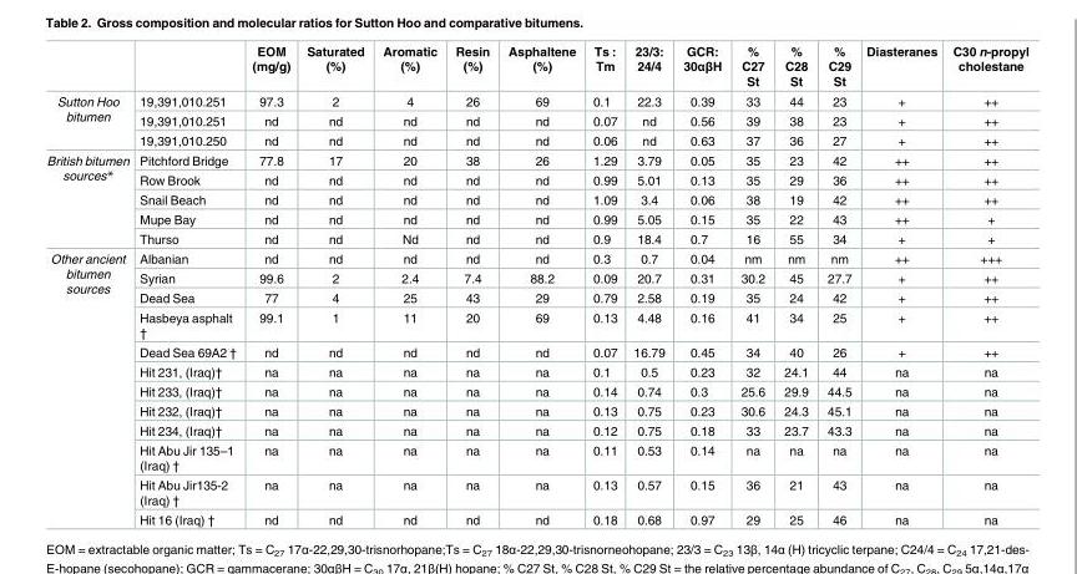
<table><thead><tr><td></td><td></td><td>EOM (mg/g)</td><td>Saturated (%)</td><td>Aromatic (%)</td><td>Resin (%)</td><td>Asphaltene (%)</td><td>Ts : Tm</td><td>23/3: 24/4</td><td>GCR: 30αβH</td><td>% C27 St</td><td>% C28 St</td><td>% C29 St</td><td>Diasteranes</td><td>C30 n-propyl cholestane</td></tr></thead><tbody><tr><td rowspan="3">Sutton Hoo bitumen</td><td>19,391,010.251</td><td>97.3</td><td>2</td><td>4</td><td>26</td><td>69</td><td>0.1</td><td>22.3</td><td>0.39</td><td>33</td><td>44</td><td>23</td><td>+</td><td>++</td></tr><tr><td>19,391,010.251</td><td>nd</td><td>nd</td><td>nd</td><td>nd</td><td>nd</td><td>0.07</td><td>nd</td><td>0.56</td><td>39</td><td>38</td><td>23</td><td>+</td><td>++</td></tr><tr><td>19,391,010.250</td><td>nd</td><td>nd</td><td>nd</td><td>nd</td><td>nd</td><td>0.06</td><td>nd</td><td>0.63</td><td>37</td><td>36</td><td>27</td><td>+</td><td>++</td></tr><tr><td rowspan="5">British bitumen sources*</td><td>Pitchford Bridge</td><td>77.8</td><td>17</td><td>20</td><td>38</td><td>26</td><td>1.29</td><td>3.79</td><td>0.05</td><td>35</td><td>23</td><td>42</td><td>++</td><td>++</td></tr><tr><td>Row Brook</td><td>nd</td><td>nd</td><td>nd</td><td>nd</td><td>nd</td><td>0.99</td><td>5.01</td><td>0.13</td><td>35</td><td>29</td><td>36</td><td>++</td><td>++</td></tr><tr><td>Snail Beach</td><td>nd</td><td>nd</td><td>nd</td><td>nd</td><td>nd</td><td>1.09</td><td>3.4</td><td>0.06</td><td>38</td><td>19</td><td>42</td><td>++</td><td>++</td></tr><tr><td>Mupe Bay</td><td>nd</td><td>nd</td><td>nd</td><td>nd</td><td>nd</td><td>0.99</td><td>5.05</td><td>0.15</td><td>35</td><td>22</td><td>43</td><td>++</td><td>+</td></tr><tr><td>Thurso</td><td>nd</td><td>nd</td><td>Nd</td><td>nd</td><td>nd</td><td>0.9</td><td>18.4</td><td>0.7</td><td>16</td><td>55</td><td>34</td><td>+</td><td>+</td></tr><tr><td rowspan="12">Other ancient bitumen sources</td><td>Albanian</td><td>nd</td><td>nd</td><td>nd</td><td>nd</td><td>nd</td><td>0.3</td><td>0.7</td><td>0.04</td><td>nm</td><td>nm</td><td>nm</td><td>++</td><td>+++</td></tr><tr><td>Syrian</td><td>99.6</td><td>2</td><td>2.4</td><td>7.4</td><td>88.2</td><td>0.09</td><td>20.7</td><td>0.31</td><td>30.2</td><td>45</td><td>27.7</td><td>+</td><td>++</td></tr><tr><td>Dead Sea</td><td>77</td><td>4</td><td>25</td><td>43</td><td>29</td><td>0.79</td><td>2.58</td><td>0.19</td><td>35</td><td>24</td><td>42</td><td>+</td><td>++</td></tr><tr><td>Hasbeya asphalt †</td><td>99.1</td><td>1</td><td>11</td><td>20</td><td>69</td><td>0.13</td><td>4.48</td><td>0.16</td><td>41</td><td>34</td><td>25</td><td>+</td><td>++</td></tr><tr><td>Dead Sea 69A2 †</td><td>nd</td><td>nd</td><td>nd</td><td>nd</td><td>nd</td><td>0.07</td><td>16.79</td><td>0.45</td><td>34</td><td>40</td><td>26</td><td>+</td><td>++</td></tr><tr><td>Hit 231, (Iraq)†</td><td>na</td><td>na</td><td>na</td><td>na</td><td>na</td><td>0.1</td><td>0.5</td><td>0.23</td><td>32</td><td>24.1</td><td>44</td><td>na</td><td>na</td></tr><tr><td>Hit 233, (Iraq)†</td><td>na</td><td>na</td><td>na</td><td>na</td><td>na</td><td>0.14</td><td>0.74</td><td>0.3</td><td>25.6</td><td>29.9</td><td>44.5</td><td>na</td><td>na</td></tr><tr><td>Hit 232, (Iraq)†</td><td>na</td><td>na</td><td>na</td><td>na</td><td>na</td><td>0.13</td><td>0.75</td><td>0.23</td><td>30.6</td><td>24.3</td><td>45.1</td><td>na</td><td>na</td></tr><tr><td>Hit 234, (Iraq)†</td><td>na</td><td>na</td><td>na</td><td>na</td><td>na</td><td>0.12</td><td>0.75</td><td>0.18</td><td>33</td><td>23.7</td><td>43.3</td><td>na</td><td>na</td></tr><tr><td>Hit Abu Jir 135–1 (Iraq) †</td><td>na</td><td>na</td><td>na</td><td>na</td><td>na</td><td>0.11</td><td>0.53</td><td>0.14</td><td>na</td><td>na</td><td>na</td><td>na</td><td>na</td></tr><tr><td>Hit Abu Jir135-2 (Iraq) †</td><td>na</td><td>na</td><td>na</td><td>na</td><td>na</td><td>0.13</td><td>0.57</td><td>0.15</td><td>36</td><td>21</td><td>43</td><td>na</td><td>na</td></tr><tr><td>Hit 16 (Iraq) †</td><td>nd</td><td>nd</td><td>nd</td><td>nd</td><td>nd</td><td>0.18</td><td>0.68</td><td>0.97</td><td>29</td><td>25</td><td>46</td><td>na</td><td>na</td></tr></tbody></table>